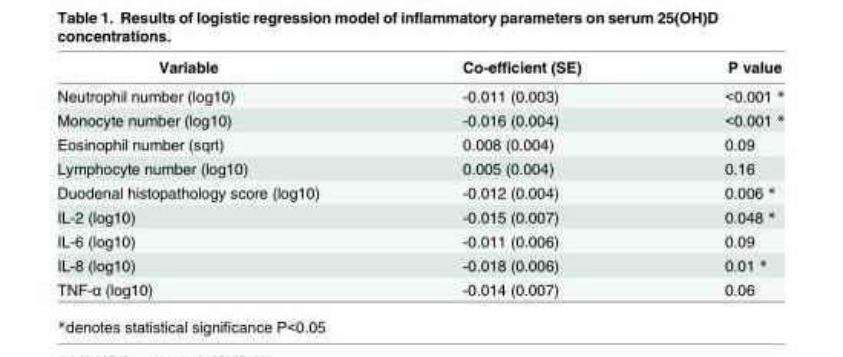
<table><thead><tr><td>Variable</td><td>Co-efficient (SE)</td><td>P value</td></tr></thead><tbody><tr><td>Neutrophil number (log10)</td><td>-0.011 (0.003)</td><td>&lt;0.001 *</td></tr><tr><td>Monocyte number (log10)</td><td>-0.016 (0.004)</td><td>&lt;0.001 *</td></tr><tr><td>Eosinophil number (sqrt)</td><td>0.008 (0.004)</td><td>0.09</td></tr><tr><td>Lymphocyte number (log10)</td><td>0.005 (0.004)</td><td>0.16</td></tr><tr><td>Duodenal histopathology score (log10)</td><td>-0.012 (0.004)</td><td>0.006 *</td></tr><tr><td>IL-2 (log10)</td><td>-0.015 (0.007)</td><td>0.048 *</td></tr><tr><td>IL-6 (log10)</td><td>-0.011 (0.006)</td><td>0.09</td></tr><tr><td>IL-8 (log10)</td><td>-0.018 (0.006)</td><td>0.01 *</td></tr><tr><td>TNF-α (log10)</td><td>-0.014 (0.007)</td><td>0.06</td></tr></tbody></table>